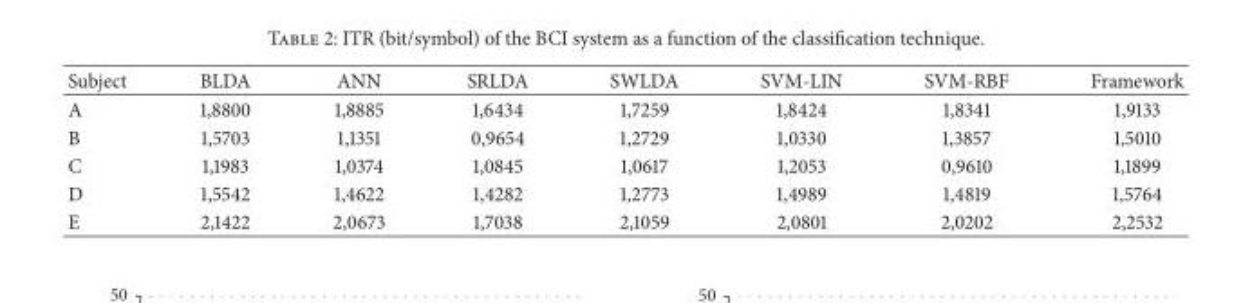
<table><thead><tr><td>Subject</td><td>BLDA</td><td>ANN</td><td>SRLDA</td><td>SWLDA</td><td>SVM-LIN</td><td>SVM-RBF</td><td>Framework</td></tr></thead><tbody><tr><td>A</td><td>1,8800</td><td>1,8885</td><td>1,6434</td><td>1,7259</td><td>1,8424</td><td>1,8341</td><td>1,9133</td></tr><tr><td>B</td><td>1,5703</td><td>1,1351</td><td>0,9654</td><td>1,2729</td><td>1,0330</td><td>1,3857</td><td>1,5010</td></tr><tr><td>C</td><td>1,1983</td><td>1,0374</td><td>1,0845</td><td>1,0617</td><td>1,2053</td><td>0,9610</td><td>1,1899</td></tr><tr><td>D</td><td>1,5542</td><td>1,4622</td><td>1,4282</td><td>1,2773</td><td>1,4989</td><td>1,4819</td><td>1,5764</td></tr><tr><td>E</td><td>2,1422</td><td>2,0673</td><td>1,7038</td><td>2,1059</td><td>2,0801</td><td>2,0202</td><td>2,2532</td></tr></tbody></table>